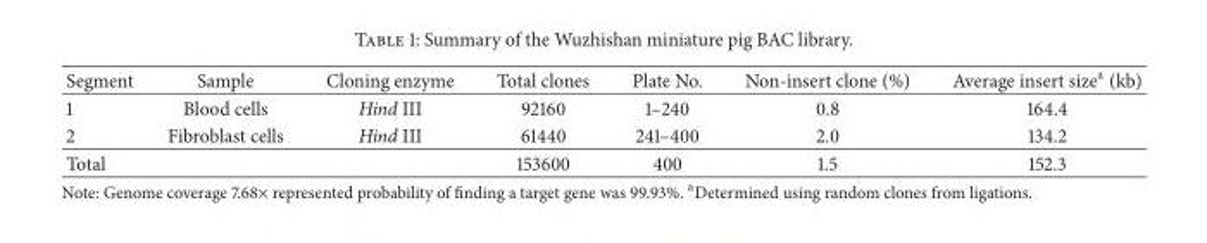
<table><thead><tr><td>Segment</td><td>Sample</td><td>Cloning enzyme</td><td>Total clones</td><td>Plate No.</td><td>Non-insert clone (%)</td><td>Average insert size<sup>a</sup> (kb)</td></tr></thead><tbody><tr><td>1</td><td>Blood cells</td><td>Hind III</td><td>92160</td><td>1–240</td><td>0.8</td><td>164.4</td></tr><tr><td>2</td><td>Fibroblast cells</td><td>Hind III</td><td>61440</td><td>241–400</td><td>2.0</td><td>134.2</td></tr><tr><td>Total</td><td></td><td></td><td>153600</td><td>400</td><td>1.5</td><td>152.3</td></tr></tbody></table>